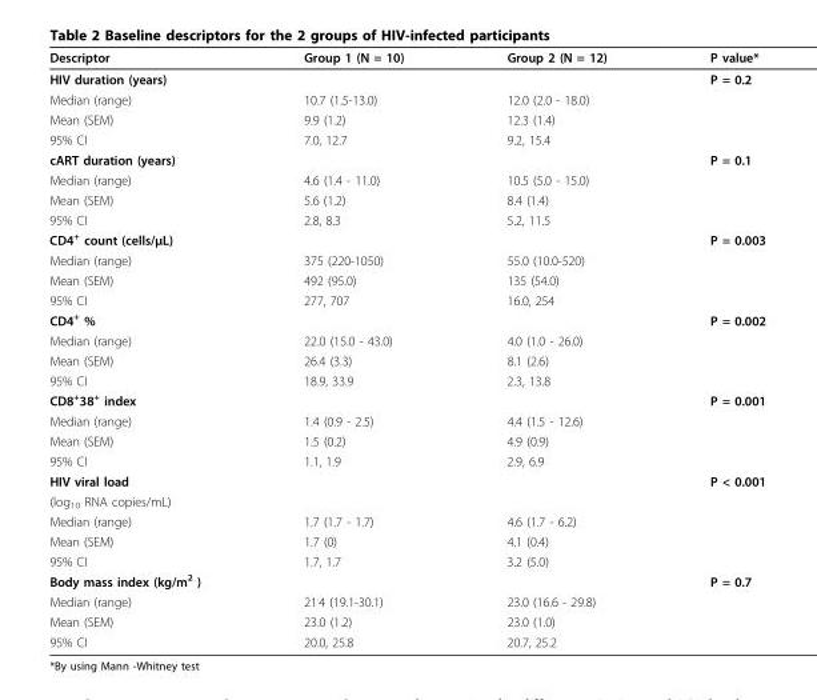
<table><thead><tr><td>Descriptor</td><td>Group 1 (N = 10)</td><td>Group 2 (N = 12)</td><td>P value*</td></tr></thead><tbody><tr><td>HIV duration (years)</td><td></td><td></td><td>P = 0.2</td></tr><tr><td>Median (range)</td><td>10.7 (1.5-13.0)</td><td>12.0 (2.0 - 18.0)</td><td></td></tr><tr><td>Mean (SEM)</td><td>9.9 (1.2)</td><td>12.3 (1.4)</td><td></td></tr><tr><td>95% CI</td><td>7.0, 12.7</td><td>9.2, 15.4</td><td></td></tr><tr><td>cART duration (years)</td><td></td><td></td><td>P = 0.1</td></tr><tr><td>Median (range)</td><td>4.6 (1.4 - 11.0)</td><td>10.5 (5.0 - 15.0)</td><td></td></tr><tr><td>Mean (SEM)</td><td>5.6 (1.2)</td><td>8.4 (1.4)</td><td></td></tr><tr><td>95% CI</td><td>2.8, 8.3</td><td>5.2, 11.5</td><td></td></tr><tr><td>CD4<sup>+</sup> count (cells/μL)</td><td></td><td></td><td>P = 0.003</td></tr><tr><td>Median (range)</td><td>375 (220-1050)</td><td>55.0 (10.0-520)</td><td></td></tr><tr><td>Mean (SEM)</td><td>492 (95.0)</td><td>135 (54.0)</td><td></td></tr><tr><td>95% CI</td><td>277, 707</td><td>16.0, 254</td><td></td></tr><tr><td>CD4<sup>+</sup> %</td><td></td><td></td><td>P = 0.002</td></tr><tr><td>Median (range)</td><td>22.0 (15.0 - 43.0)</td><td>4.0 (1.0 - 26.0)</td><td></td></tr><tr><td>Mean (SEM)</td><td>26.4 (3.3)</td><td>8.1 (2.6)</td><td></td></tr><tr><td>95% CI</td><td>18.9, 33.9</td><td>2.3, 13.8</td><td></td></tr><tr><td>CD8<sup>+</sup>38<sup>+</sup> index</td><td></td><td></td><td>P = 0.001</td></tr><tr><td>Median (range)</td><td>1.4 (0.9 - 2.5)</td><td>4.4 (1.5 - 12.6)</td><td></td></tr><tr><td>Mean (SEM)</td><td>1.5 (0.2)</td><td>4.9 (0.9)</td><td></td></tr><tr><td>95% CI</td><td>1.1, 1.9</td><td>2.9, 6.9</td><td></td></tr><tr><td>HIV viral load</td><td></td><td></td><td>P &lt; 0.001</td></tr><tr><td colspan="4">(log<sub>10</sub> RNA copies/mL)</td></tr><tr><td>Median (range)</td><td>1.7 (1.7 - 1.7)</td><td>4.6 (1.7 - 6.2)</td><td></td></tr><tr><td>Mean (SEM)</td><td>1.7 (0)</td><td>4.1 (0.4)</td><td></td></tr><tr><td>95% CI</td><td>1.7, 1.7</td><td>3.2 (5.0)</td><td></td></tr><tr><td>Body mass index (kg/m<sup>2</sup> )</td><td></td><td></td><td>P = 0.7</td></tr><tr><td>Median (range)</td><td>21<sup>.</sup>4 (19.1-30.1)</td><td>23.0 (16.6 - 29.8)</td><td></td></tr><tr><td>Mean (SEM)</td><td>23.0 (1.2)</td><td>23.0 (1.0)</td><td></td></tr><tr><td>95% CI</td><td>20.0, 25.8</td><td>20.7, 25.2</td><td></td></tr></tbody></table>